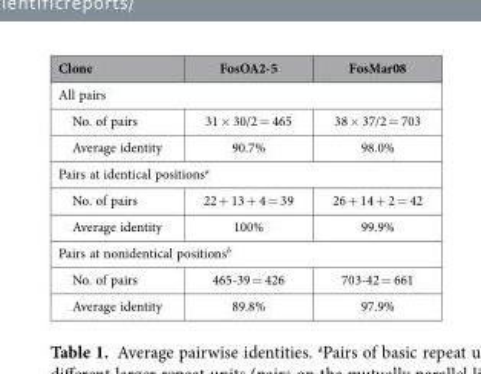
<table><thead><tr><td>Clone</td><td>FosOA2-5</td><td>FosMar08</td></tr></thead><tbody><tr><td colspan="3">All pairs</td></tr><tr><td>No. of pairs</td><td>31 × 30/2 = 465</td><td>38 × 37/2 = 703</td></tr><tr><td>Average identity</td><td>90.7%</td><td>98.0%</td></tr><tr><td colspan="3">Pairs at identical positions<sup>a</sup></td></tr><tr><td>No. of pairs</td><td>22 + 13 + 4 = 39</td><td>26 + 14 + 2 = 42</td></tr><tr><td>Average identity</td><td>100%</td><td>99.9%</td></tr><tr><td colspan="3">Pairs at nonidentical positions<sup>b</sup></td></tr><tr><td>No. of pairs</td><td>465-39 = 426</td><td>703-42 = 661</td></tr><tr><td>Average identity</td><td>89.8%</td><td>97.9%</td></tr></tbody></table>